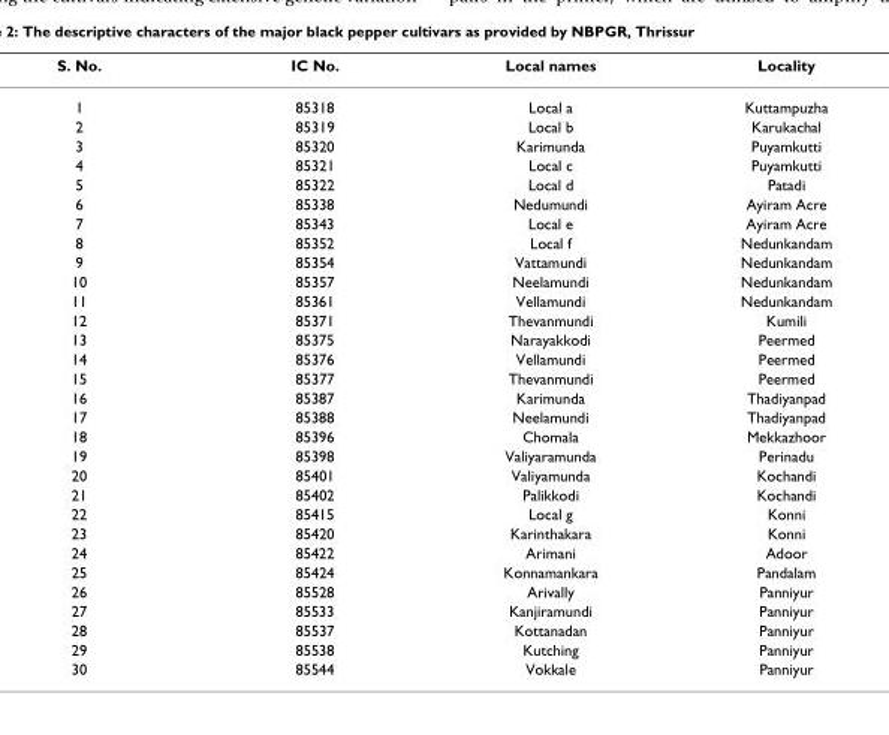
<table><thead><tr><td>S. No.</td><td>IC No.</td><td>Local names</td><td>Locality</td></tr></thead><tbody><tr><td>1</td><td>85318</td><td>Local a</td><td>Kuttampuzha</td></tr><tr><td>2</td><td>85319</td><td>Local b</td><td>Karukachal</td></tr><tr><td>3</td><td>85320</td><td>Karimunda</td><td>Puyamkutti</td></tr><tr><td>4</td><td>85321</td><td>Local c</td><td>Puyamkutti</td></tr><tr><td>5</td><td>85322</td><td>Local d</td><td>Patadi</td></tr><tr><td>6</td><td>85338</td><td>Nedumundi</td><td>Ayiram Acre</td></tr><tr><td>7</td><td>85343</td><td>Local e</td><td>Ayiram Acre</td></tr><tr><td>8</td><td>85352</td><td>Local f</td><td>Nedunkandam</td></tr><tr><td>9</td><td>85354</td><td>Vattamundi</td><td>Nedunkandam</td></tr><tr><td>10</td><td>85357</td><td>Neelamundi</td><td>Nedunkandam</td></tr><tr><td>11</td><td>85361</td><td>Vellamundi</td><td>Nedunkandam</td></tr><tr><td>12</td><td>85371</td><td>Thevanmundi</td><td>Kumili</td></tr><tr><td>13</td><td>85375</td><td>Narayakkodi</td><td>Peermed</td></tr><tr><td>14</td><td>85376</td><td>Vellamundi</td><td>Peermed</td></tr><tr><td>15</td><td>85377</td><td>Thevanmundi</td><td>Peermed</td></tr><tr><td>16</td><td>85387</td><td>Karimunda</td><td>Thadiyanpad</td></tr><tr><td>17</td><td>85388</td><td>Neelamundi</td><td>Thadiyanpad</td></tr><tr><td>18</td><td>85396</td><td>Chomala</td><td>Mekkazhoor</td></tr><tr><td>19</td><td>85398</td><td>Valiyaramunda</td><td>Perinadu</td></tr><tr><td>20</td><td>85401</td><td>Valiyamunda</td><td>Kochandi</td></tr><tr><td>21</td><td>85402</td><td>Palikkodi</td><td>Kochandi</td></tr><tr><td>22</td><td>85415</td><td>Local g</td><td>Konni</td></tr><tr><td>23</td><td>85420</td><td>Karinthakara</td><td>Konni</td></tr><tr><td>24</td><td>85422</td><td>Arimani</td><td>Adoor</td></tr><tr><td>25</td><td>85424</td><td>Konnamankara</td><td>Pandalam</td></tr><tr><td>26</td><td>85528</td><td>Arivally</td><td>Panniyur</td></tr><tr><td>27</td><td>85533</td><td>Kanjiramundi</td><td>Panniyur</td></tr><tr><td>28</td><td>85537</td><td>Kottanadan</td><td>Panniyur</td></tr><tr><td>29</td><td>85538</td><td>Kutching</td><td>Panniyur</td></tr><tr><td>30</td><td>85544</td><td>Vokkale</td><td>Panniyur</td></tr></tbody></table>